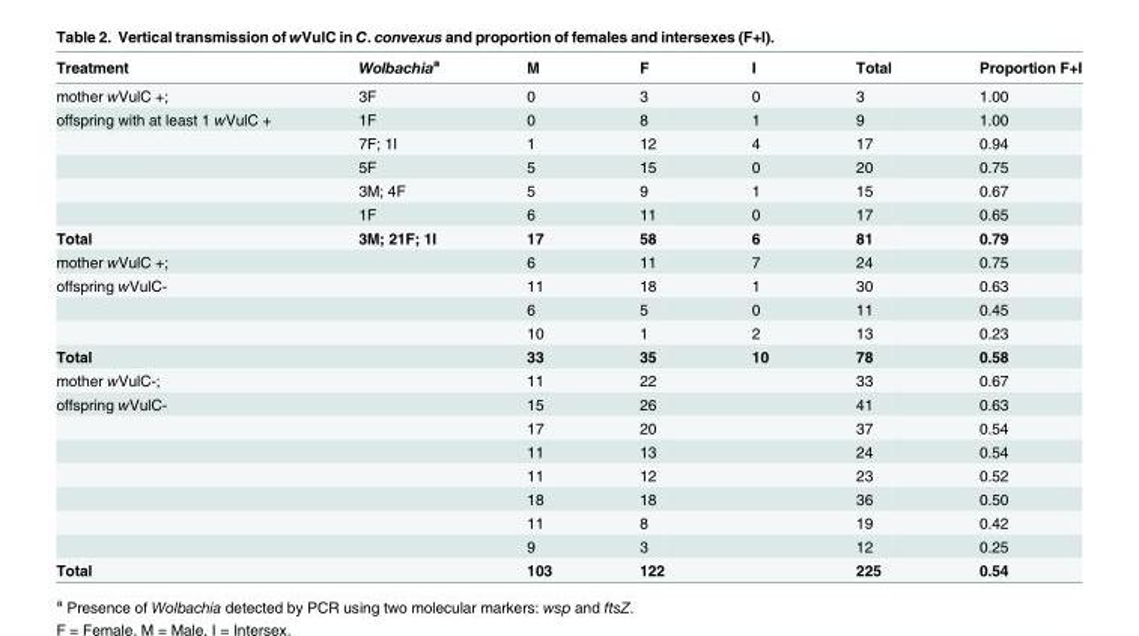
<table><thead><tr><td>Treatment</td><td>Wolbachia<sup>a</sup></td><td>M</td><td>F</td><td>I</td><td>Total</td><td>Proportion F+I</td></tr></thead><tbody><tr><td>mother wVulC +;</td><td>3F</td><td>0</td><td>3</td><td>0</td><td>3</td><td>1.00</td></tr><tr><td rowspan="5">offspring with at least 1 wVulC +</td><td>1F</td><td>0</td><td>8</td><td>1</td><td>9</td><td>1.00</td></tr><tr><td>7F; 1I</td><td>1</td><td>12</td><td>4</td><td>17</td><td>0.94</td></tr><tr><td>5F</td><td>5</td><td>15</td><td>0</td><td>20</td><td>0.75</td></tr><tr><td>3M; 4F</td><td>5</td><td>9</td><td>1</td><td>15</td><td>0.67</td></tr><tr><td>1F</td><td>6</td><td>11</td><td>0</td><td>17</td><td>0.65</td></tr><tr><td>Total</td><td>3M; 21F; 1I</td><td>17</td><td>58</td><td>6</td><td>81</td><td>0.79</td></tr><tr><td>mother wVulC +;</td><td></td><td>6</td><td>11</td><td>7</td><td>24</td><td>0.75</td></tr><tr><td rowspan="3">offspring wVulC-</td><td></td><td>11</td><td>18</td><td>1</td><td>30</td><td>0.63</td></tr><tr><td></td><td>6</td><td>5</td><td>0</td><td>11</td><td>0.45</td></tr><tr><td></td><td>10</td><td>1</td><td>2</td><td>13</td><td>0.23</td></tr><tr><td>Total</td><td></td><td>33</td><td>35</td><td>10</td><td>78</td><td>0.58</td></tr><tr><td>mother wVulC-;</td><td></td><td>11</td><td>22</td><td></td><td>33</td><td>0.67</td></tr><tr><td rowspan="7">offspring wVulC-</td><td></td><td>15</td><td>26</td><td></td><td>41</td><td>0.63</td></tr><tr><td></td><td>17</td><td>20</td><td></td><td>37</td><td>0.54</td></tr><tr><td></td><td>11</td><td>13</td><td></td><td>24</td><td>0.54</td></tr><tr><td></td><td>11</td><td>12</td><td></td><td>23</td><td>0.52</td></tr><tr><td></td><td>18</td><td>18</td><td></td><td>36</td><td>0.50</td></tr><tr><td></td><td>11</td><td>8</td><td></td><td>19</td><td>0.42</td></tr><tr><td></td><td>9</td><td>3</td><td></td><td>12</td><td>0.25</td></tr><tr><td>Total</td><td></td><td>103</td><td>122</td><td></td><td>225</td><td>0.54</td></tr></tbody></table>